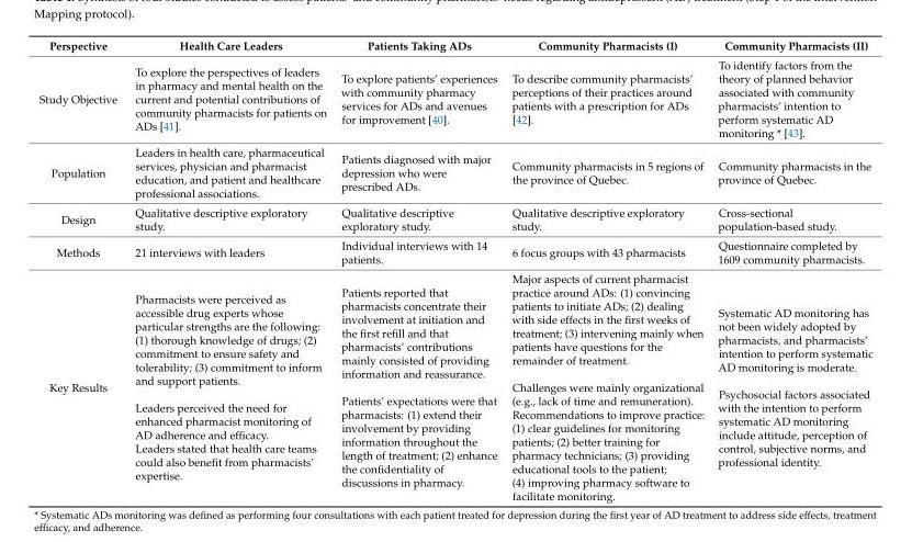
<table><thead><tr><td>Perspective</td><td>Health Care Leaders</td><td>Patients Taking ADs</td><td>Community Pharmacists (I)</td><td>Community Pharmacists (II)</td></tr></thead><tbody><tr><td>Study Objective</td><td>To explore the perspectives of leaders in pharmacy and mental health on the current and potential contributions of community pharmacists for patients on ADs [41].</td><td>To explore patients’ experiences with community pharmacy services for ADs and avenues for improvement [40].</td><td>To describe community pharmacists’ perceptions of their practices around patients with a prescription for ADs [42].</td><td>To identify factors from the theory of planned behavior associated with community pharmacists’ intention to perform systematic AD monitoring * [43].</td></tr><tr><td>Population</td><td>Leaders in health care, pharmaceutical services, physician and pharmacist education, and patient and healthcare professional associations.</td><td>Patients diagnosed with major depression who were prescribed ADs.</td><td>Community pharmacists in 5 regions of the province of Quebec.</td><td>Community pharmacists in the province of Quebec.</td></tr><tr><td>Design</td><td>Qualitative descriptive exploratory study.</td><td>Qualitative descriptive exploratory study.</td><td>Qualitative descriptive exploratory study.</td><td>Cross-sectional population-based study.</td></tr><tr><td>Methods</td><td>21 interviews with leaders</td><td>Individual interviews with 14 patients.</td><td>6 focus groups with 43 pharmacists</td><td>Questionnaire completed by 1609 community pharmacists.</td></tr><tr><td>Key Results</td><td>Pharmacists were perceived as accessible drug experts whose particular strengths are the following: (1) thorough knowledge of drugs; (2) commitment to ensure safety and tolerability; (3) commitment to inform and support patients. Leaders perceived the need for enhanced pharmacist monitoring of AD adherence and efficacy. Leaders stated that health care teams could also benefit from pharmacists’ expertise.</td><td>Patients reported that pharmacists concentrate their involvement at initiation and the first refill and that pharmacists’ contributions mainly consisted of providing information and reassurance. Patients’ expectations were that pharmacists: (1) extend their involvement by providing information throughout the length of treatment; (2) enhance the confidentiality of discussions in pharmacy.</td><td>Major aspects of current pharmacist practice around ADs: (1) convincing patients to initiate ADs; (2) dealing with side effects in the first weeks of treatment; (3) intervening mainly when patients have questions for the remainder of treatment. Challenges were mainly organizational (e.g., lack of time and remuneration). Recommendations to improve practice: (1) clear guidelines for monitoring patients; (2) better training for pharmacy technicians; (3) providing educational tools to the patient; (4) improving pharmacy software to facilitate monitoring.</td><td>Systematic AD monitoring has not been widely adopted by pharmacists, and pharmacists’ intention to perform systematic AD monitoring is moderate. Psychosocial factors associated with the intention to perform systematic AD monitoring include attitude, perception of control, subjective norms, and professional identity.</td></tr></tbody></table>